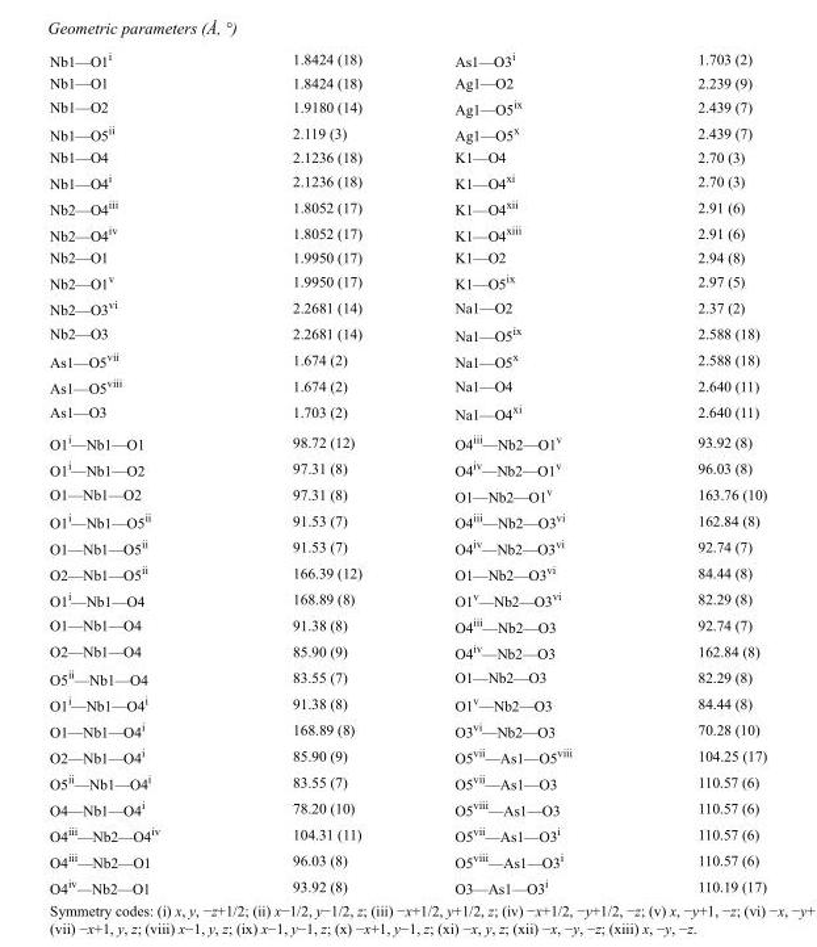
<table><tbody><tr><td>Nb1—O1<sup>i</sup></td><td>1.8424 (18)</td><td>As1—O3<sup>i</sup></td><td>1.703 (2)</td></tr><tr><td>Nb1—O1</td><td>1.8424 (18)</td><td>Ag1—O2</td><td>2.239 (9)</td></tr><tr><td>Nb1—O2</td><td>1.9180 (14)</td><td>Ag1—O5<sup>ix</sup></td><td>2.439 (7)</td></tr><tr><td>Nb1—O5<sup>ii</sup></td><td>2.119 (3)</td><td>Ag1—O5<sup>x</sup></td><td>2.439 (7)</td></tr><tr><td>Nb1—O4</td><td>2.1236 (18)</td><td>K1—O4</td><td>2.70 (3)</td></tr><tr><td>Nb1—O4<sup>i</sup></td><td>2.1236 (18)</td><td>K1—O4<sup>xi</sup></td><td>2.70 (3)</td></tr><tr><td>Nb2—O4<sup>iii</sup></td><td>1.8052 (17)</td><td>K1—O4<sup>xii</sup></td><td>2.91 (6)</td></tr><tr><td>Nb2—O4<sup>iv</sup></td><td>1.8052 (17)</td><td>K1—O4<sup>xiii</sup></td><td>2.91 (6)</td></tr><tr><td>Nb2—O1</td><td>1.9950 (17)</td><td>K1—O2</td><td>2.94 (8)</td></tr><tr><td>Nb2—O1<sup>v</sup></td><td>1.9950 (17)</td><td>K1—O5<sup>ix</sup></td><td>2.97 (5)</td></tr><tr><td>Nb2—O3<sup>vi</sup></td><td>2.2681 (14)</td><td>Na1—O2</td><td>2.37 (2)</td></tr><tr><td>Nb2—O3</td><td>2.2681 (14)</td><td>Na1—O5<sup>ix</sup></td><td>2.588 (18)</td></tr><tr><td>As1—O5<sup>vii</sup></td><td>1.674 (2)</td><td>Na1—O5<sup>x</sup></td><td>2.588 (18)</td></tr><tr><td>As1—O5<sup>viii</sup></td><td>1.674 (2)</td><td>Na1—O4</td><td>2.640 (11)</td></tr><tr><td>As1—O3</td><td>1.703 (2)</td><td>Na1—O4<sup>xi</sup></td><td>2.640 (11)</td></tr><tr><td>O1<sup>i</sup>—Nb1—O1</td><td>98.72 (12)</td><td>O4<sup>iii</sup>—Nb2—O1<sup>v</sup></td><td>93.92 (8)</td></tr><tr><td>O1<sup>i</sup>—Nb1—O2</td><td>97.31 (8)</td><td>O4<sup>iv</sup>—Nb2—O1<sup>v</sup></td><td>96.03 (8)</td></tr><tr><td>O1—Nb1—O2</td><td>97.31 (8)</td><td>O1—Nb2—O1<sup>v</sup></td><td>163.76 (10)</td></tr><tr><td>O1<sup>i</sup>—Nb1—O5<sup>ii</sup></td><td>91.53 (7)</td><td>O4<sup>iii</sup>—Nb2—O3<sup>vi</sup></td><td>162.84 (8)</td></tr><tr><td>O1—Nb1—O5<sup>ii</sup></td><td>91.53 (7)</td><td>O4<sup>iv</sup>—Nb2—O3<sup>vi</sup></td><td>92.74 (7)</td></tr><tr><td>O2—Nb1—O5<sup>ii</sup></td><td>166.39 (12)</td><td>O1—Nb2—O3<sup>vi</sup></td><td>84.44 (8)</td></tr><tr><td>O1<sup>i</sup>—Nb1—O4</td><td>168.89 (8)</td><td>O1<sup>v</sup>—Nb2—O3<sup>vi</sup></td><td>82.29 (8)</td></tr><tr><td>O1—Nb1—O4</td><td>91.38 (8)</td><td>O4<sup>iii</sup>—Nb2—O3</td><td>92.74 (7)</td></tr><tr><td>O2—Nb1—O4</td><td>85.90 (9)</td><td>O4<sup>iv</sup>—Nb2—O3</td><td>162.84 (8)</td></tr><tr><td>O5<sup>ii</sup>—Nb1—O4</td><td>83.55 (7)</td><td>O1—Nb2—O3</td><td>82.29 (8)</td></tr><tr><td>O1<sup>i</sup>—Nb1—O4<sup>i</sup></td><td>91.38 (8)</td><td>O1<sup>v</sup>—Nb2—O3</td><td>84.44 (8)</td></tr><tr><td>O1—Nb1—O4<sup>i</sup></td><td>168.89 (8)</td><td>O3<sup>vi</sup>—Nb2—O3</td><td>70.28 (10)</td></tr><tr><td>O2—Nb1—O4<sup>i</sup></td><td>85.90 (9)</td><td>O5<sup>vii</sup>—As1—O5<sup>viii</sup></td><td>104.25 (17)</td></tr><tr><td>O5<sup>ii</sup>—Nb1—O4<sup>i</sup></td><td>83.55 (7)</td><td>O5<sup>vii</sup>—As1—O3</td><td>110.57 (6)</td></tr><tr><td>O4—Nb1—O4<sup>i</sup></td><td>78.20 (10)</td><td>O5<sup>viii</sup>—As1—O3</td><td>110.57 (6)</td></tr><tr><td>O4<sup>iii</sup>—Nb2—O4<sup>iv</sup></td><td>104.31 (11)</td><td>O5<sup>vii</sup>—As1—O3<sup>i</sup></td><td>110.57 (6)</td></tr><tr><td>O4<sup>iii</sup>—Nb2—O1</td><td>96.03 (8)</td><td>O5<sup>viii</sup>—As1—O3<sup>i</sup></td><td>110.57 (6)</td></tr><tr><td>O4<sup>iv</sup>—Nb2—O1</td><td>93.92 (8)</td><td>O3—As1—O3<sup>i</sup></td><td>110.19 (17)</td></tr></tbody></table>